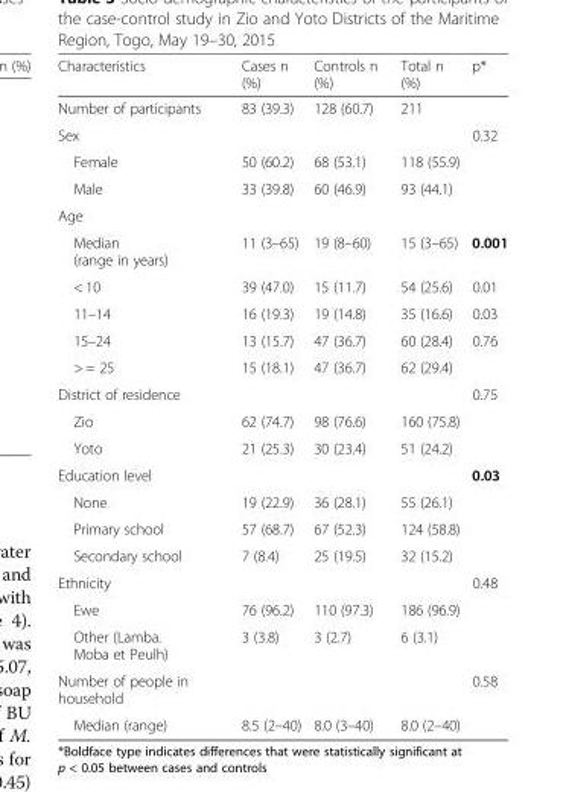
<table><thead><tr><td>Characteristics</td><td>Cases n (%)</td><td>Controls n (%)</td><td>Total n (%)</td><td>p*</td></tr></thead><tbody><tr><td>Number of participants</td><td>83 (39.3)</td><td>128 (60.7)</td><td>211</td><td></td></tr><tr><td>Sex</td><td></td><td></td><td></td><td>0.32</td></tr><tr><td>Female</td><td>50 (60.2)</td><td>68 (53.1)</td><td>118 (55.9)</td><td></td></tr><tr><td>Male</td><td>33 (39.8)</td><td>60 (46.9)</td><td>93 (44.1)</td><td></td></tr><tr><td colspan="5">Age</td></tr><tr><td>Median (range in years)</td><td>11 (3–65)</td><td>19 (8–60)</td><td>15 (3–65)</td><td>0.001</td></tr><tr><td>&lt; 10</td><td>39 (47.0)</td><td>15 (11.7)</td><td>54 (25.6)</td><td>0.01</td></tr><tr><td>11–14</td><td>16 (19.3)</td><td>19 (14.8)</td><td>35 (16.6)</td><td>0.03</td></tr><tr><td>15–24</td><td>13 (15.7)</td><td>47 (36.7)</td><td>60 (28.4)</td><td>0.76</td></tr><tr><td>&gt; = 25</td><td>15 (18.1)</td><td>47 (36.7)</td><td>62 (29.4)</td><td></td></tr><tr><td>District of residence</td><td></td><td></td><td></td><td>0.75</td></tr><tr><td>Zio</td><td>62 (74.7)</td><td>98 (76.6)</td><td>160 (75.8)</td><td></td></tr><tr><td>Yoto</td><td>21 (25.3)</td><td>30 (23.4)</td><td>51 (24.2)</td><td></td></tr><tr><td>Education level</td><td></td><td></td><td></td><td>0.03</td></tr><tr><td>None</td><td>19 (22.9)</td><td>36 (28.1)</td><td>55 (26.1)</td><td></td></tr><tr><td>Primary school</td><td>57 (68.7)</td><td>67 (52.3)</td><td>124 (58.8)</td><td></td></tr><tr><td>Secondary school</td><td>7 (8.4)</td><td>25 (19.5)</td><td>32 (15.2)</td><td></td></tr><tr><td>Ethnicity</td><td></td><td></td><td></td><td>0.48</td></tr><tr><td>Ewe</td><td>76 (96.2)</td><td>110 (97.3)</td><td>186 (96.9)</td><td></td></tr><tr><td>Other (Lamba. Moba et Peulh)</td><td>3 (3.8)</td><td>3 (2.7)</td><td>6 (3.1)</td><td></td></tr><tr><td>Number of people in household</td><td></td><td></td><td></td><td>0.58</td></tr><tr><td>Median (range)</td><td>8.5 (2–40)</td><td>8.0 (3–40)</td><td>8.0 (2–40)</td><td></td></tr></tbody></table>